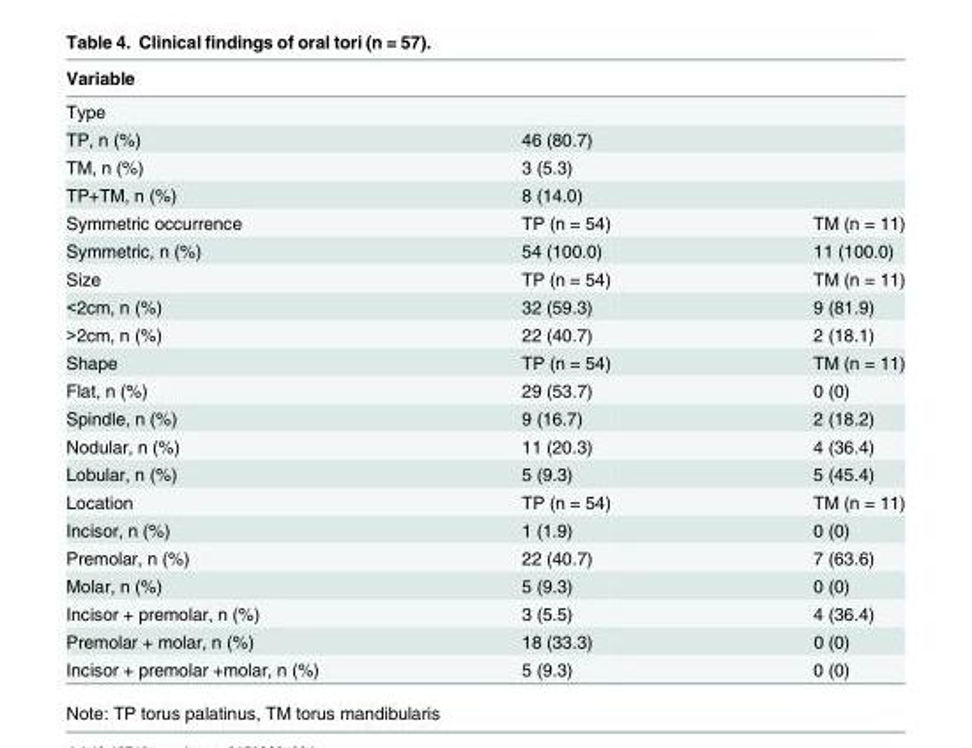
<table><thead><tr><td>Variable</td><td></td><td></td></tr></thead><tbody><tr><td colspan="3">Type</td></tr><tr><td>TP, n (%)</td><td colspan="2">46 (80.7)</td></tr><tr><td>TM, n (%)</td><td colspan="2">3 (5.3)</td></tr><tr><td>TP+TM, n (%)</td><td colspan="2">8 (14.0)</td></tr><tr><td>Symmetric occurrence</td><td>TP (n = 54)</td><td>TM (n = 11)</td></tr><tr><td>Symmetric, n (%)</td><td>54 (100.0)</td><td>11 (100.0)</td></tr><tr><td>Size</td><td>TP (n = 54)</td><td>TM (n = 11)</td></tr><tr><td>&lt;2cm, n (%)</td><td>32 (59.3)</td><td>9 (81.9)</td></tr><tr><td>&gt;2cm, n (%)</td><td>22 (40.7)</td><td>2 (18.1)</td></tr><tr><td>Shape</td><td>TP (n = 54)</td><td>TM (n = 11)</td></tr><tr><td>Flat, n (%)</td><td>29 (53.7)</td><td>0 (0)</td></tr><tr><td>Spindle, n (%)</td><td>9 (16.7)</td><td>2 (18.2)</td></tr><tr><td>Nodular, n (%)</td><td>11 (20.3)</td><td>4 (36.4)</td></tr><tr><td>Lobular, n (%)</td><td>5 (9.3)</td><td>5 (45.4)</td></tr><tr><td>Location</td><td>TP (n = 54)</td><td>TM (n = 11)</td></tr><tr><td>Incisor, n (%)</td><td>1 (1.9)</td><td>0 (0)</td></tr><tr><td>Premolar, n (%)</td><td>22 (40.7)</td><td>7 (63.6)</td></tr><tr><td>Molar, n (%)</td><td>5 (9.3)</td><td>0 (0)</td></tr><tr><td>Incisor + premolar, n (%)</td><td>3 (5.5)</td><td>4 (36.4)</td></tr><tr><td>Premolar + molar, n (%)</td><td>18 (33.3)</td><td>0 (0)</td></tr><tr><td>Incisor + premolar +molar, n (%)</td><td>5 (9.3)</td><td>0 (0)</td></tr></tbody></table>